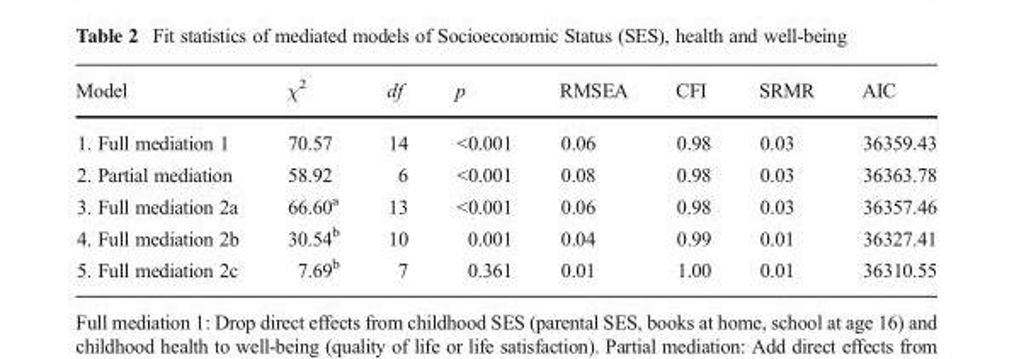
<table><thead><tr><td>Model</td><td>χ<sup>2</sup></td><td>df</td><td>p</td><td>RMSEA</td><td>CFI</td><td>SRMR</td><td>AIC</td></tr></thead><tbody><tr><td>1. Full mediation 1</td><td>70.57</td><td>14</td><td>&lt;0.001</td><td>0.06</td><td>0.98</td><td>0.03</td><td>36359.43</td></tr><tr><td>2. Partial mediation</td><td>58.92</td><td>6</td><td>&lt;0.001</td><td>0.08</td><td>0.98</td><td>0.03</td><td>36363.78</td></tr><tr><td>3. Full mediation 2a</td><td>66.60<sup>a</sup></td><td>13</td><td>&lt;0.001</td><td>0.06</td><td>0.98</td><td>0.03</td><td>36357.46</td></tr><tr><td>4. Full mediation 2b</td><td>30.54<sup>b</sup></td><td>10</td><td>0.001</td><td>0.04</td><td>0.99</td><td>0.01</td><td>36327.41</td></tr><tr><td>5. Full mediation 2c</td><td>7.69<sup>b</sup></td><td>7</td><td>0.361</td><td>0.01</td><td>1.00</td><td>0.01</td><td>36310.55</td></tr></tbody></table>